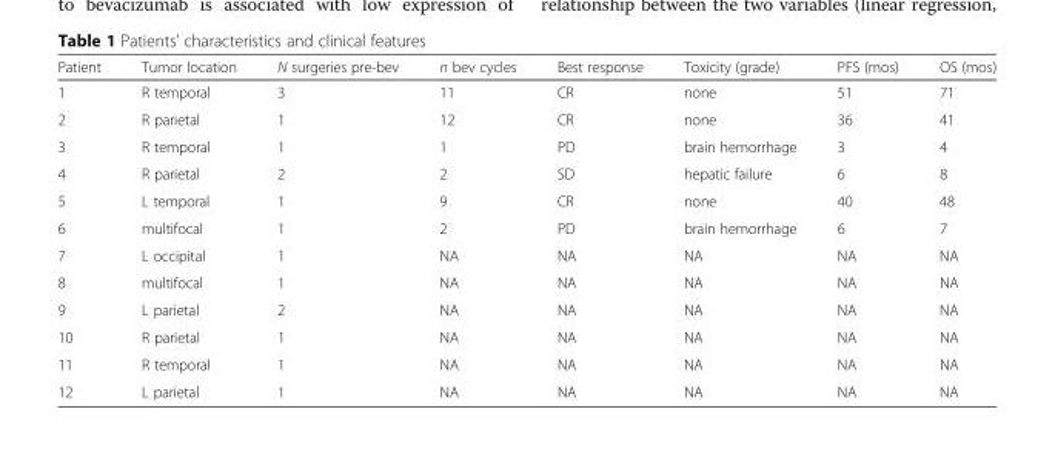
<table><thead><tr><td>Patient</td><td>Tumor location</td><td>N surgeries pre-bev</td><td>n bev cycles</td><td>Best response</td><td>Toxicity (grade)</td><td>PFS (mos)</td><td>OS (mos)</td></tr></thead><tbody><tr><td>1</td><td>R temporal</td><td>3</td><td>11</td><td>CR</td><td>none</td><td>51</td><td>71</td></tr><tr><td>2</td><td>R parietal</td><td>1</td><td>12</td><td>CR</td><td>none</td><td>36</td><td>41</td></tr><tr><td>3</td><td>R temporal</td><td>1</td><td>1</td><td>PD</td><td>brain hemorrhage</td><td>3</td><td>4</td></tr><tr><td>4</td><td>R parietal</td><td>2</td><td>2</td><td>SD</td><td>hepatic failure</td><td>6</td><td>8</td></tr><tr><td>5</td><td>L temporal</td><td>1</td><td>9</td><td>CR</td><td>none</td><td>40</td><td>48</td></tr><tr><td>6</td><td>multifocal</td><td>1</td><td>2</td><td>PD</td><td>brain hemorrhage</td><td>6</td><td>7</td></tr><tr><td>7</td><td>L occipital</td><td>1</td><td>NA</td><td>NA</td><td>NA</td><td>NA</td><td>NA</td></tr><tr><td>8</td><td>multifocal</td><td>1</td><td>NA</td><td>NA</td><td>NA</td><td>NA</td><td>NA</td></tr><tr><td>9</td><td>L parietal</td><td>2</td><td>NA</td><td>NA</td><td>NA</td><td>NA</td><td>NA</td></tr><tr><td>10</td><td>R parietal</td><td>1</td><td>NA</td><td>NA</td><td>NA</td><td>NA</td><td>NA</td></tr><tr><td>11</td><td>R temporal</td><td>1</td><td>NA</td><td>NA</td><td>NA</td><td>NA</td><td>NA</td></tr><tr><td>12</td><td>L parietal</td><td>1</td><td>NA</td><td>NA</td><td>NA</td><td>NA</td><td>NA</td></tr></tbody></table>